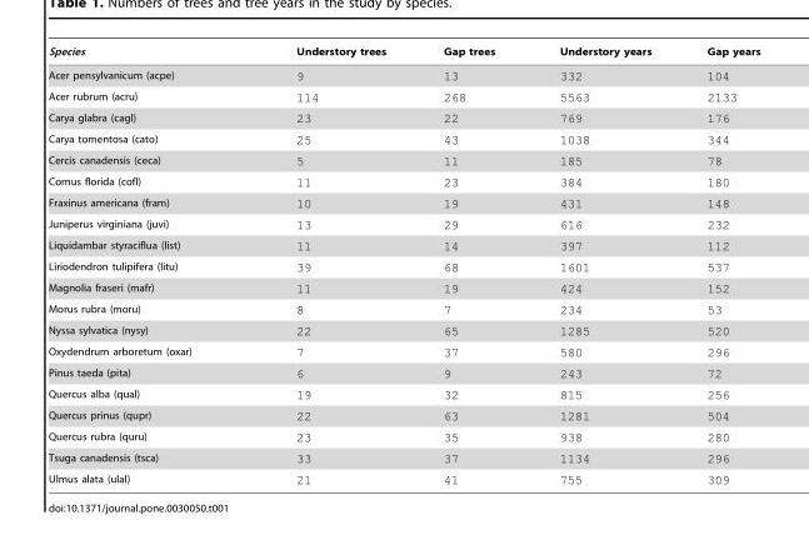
<table><thead><tr><td>Species</td><td>Understory trees</td><td>Gap trees</td><td>Understory years</td><td>Gap years</td></tr></thead><tbody><tr><td>Acer pensylvanicum (acpe)</td><td>9</td><td>13</td><td>332</td><td>104</td></tr><tr><td>Acer rubrum (acru)</td><td>114</td><td>268</td><td>5563</td><td>2133</td></tr><tr><td>Carya glabra (cagl)</td><td>23</td><td>22</td><td>769</td><td>176</td></tr><tr><td>Carya tomentosa (cato)</td><td>25</td><td>43</td><td>1038</td><td>344</td></tr><tr><td>Cercis canadensis (ceca)</td><td>5</td><td>11</td><td>185</td><td>78</td></tr><tr><td>Cornus florida (cofl)</td><td>11</td><td>23</td><td>384</td><td>180</td></tr><tr><td>Fraxinus americana (fram)</td><td>10</td><td>19</td><td>431</td><td>148</td></tr><tr><td>Juniperus virginiana (juvi)</td><td>13</td><td>29</td><td>616</td><td>232</td></tr><tr><td>Liquidambar styraciflua (list)</td><td>11</td><td>14</td><td>397</td><td>112</td></tr><tr><td>Liriodendron tulipifera (litu)</td><td>39</td><td>68</td><td>1601</td><td>537</td></tr><tr><td>Magnolia fraseri (mafr)</td><td>11</td><td>19</td><td>424</td><td>152</td></tr><tr><td>Morus rubra (moru)</td><td>8</td><td>7</td><td>234</td><td>53</td></tr><tr><td>Nyssa sylvatica (nysy)</td><td>22</td><td>65</td><td>1285</td><td>520</td></tr><tr><td>Oxydendrum arboretum (oxar)</td><td>7</td><td>37</td><td>580</td><td>296</td></tr><tr><td>Pinus taeda (pita)</td><td>6</td><td>9</td><td>243</td><td>72</td></tr><tr><td>Quercus alba (qual)</td><td>19</td><td>32</td><td>815</td><td>256</td></tr><tr><td>Quercus prinus (qupr)</td><td>22</td><td>63</td><td>1281</td><td>504</td></tr><tr><td>Quercus rubra (quru)</td><td>23</td><td>35</td><td>938</td><td>280</td></tr><tr><td>Tsuga canadensis (tsca)</td><td>33</td><td>37</td><td>1134</td><td>296</td></tr><tr><td>Ulmus alata (ulal)</td><td>21</td><td>41</td><td>755</td><td>309</td></tr></tbody></table>